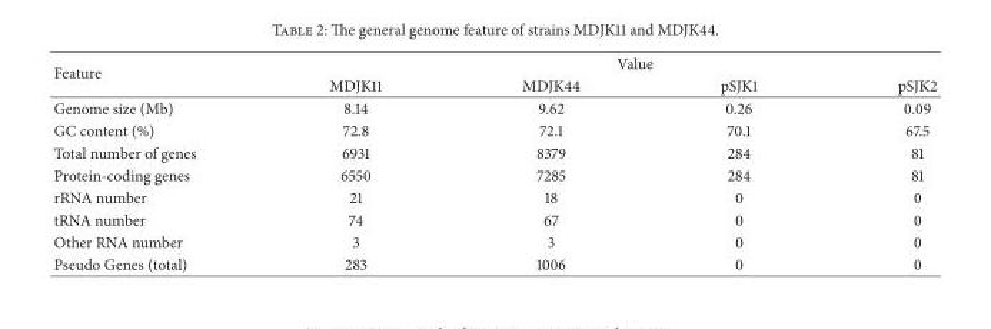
<table><thead><tr><td rowspan="2">Feature</td><td colspan="4">Value</td></tr><tr><td>MDJK11</td><td>MDJK44</td><td>pSJK1</td><td>pSJK2</td></tr></thead><tbody><tr><td>Genome size (Mb)</td><td>8.14</td><td>9.62</td><td>0.26</td><td>0.09</td></tr><tr><td>GC content (%)</td><td>72.8</td><td>72.1</td><td>70.1</td><td>67.5</td></tr><tr><td>Total number of genes</td><td>6931</td><td>8379</td><td>284</td><td>81</td></tr><tr><td>Protein-coding genes</td><td>6550</td><td>7285</td><td>284</td><td>81</td></tr><tr><td>rRNA number</td><td>21</td><td>18</td><td>0</td><td>0</td></tr><tr><td>tRNA number</td><td>74</td><td>67</td><td>0</td><td>0</td></tr><tr><td>Other RNA number</td><td>3</td><td>3</td><td>0</td><td>0</td></tr><tr><td>Pseudo Genes (total)</td><td>283</td><td>1006</td><td>0</td><td>0</td></tr></tbody></table>